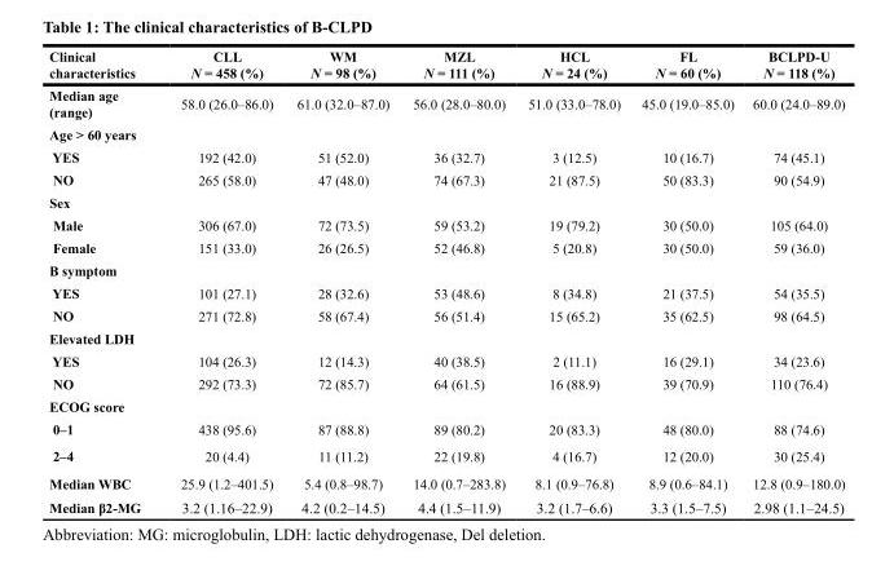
<table><thead><tr><td>Clinical characteristics</td><td>CLL N = 458 (%)</td><td>WM N = 98 (%)</td><td>MZL N = 111 (%)</td><td>HCL N = 24 (%)</td><td>FL N = 60 (%)</td><td>BCLPD-U N = 118 (%)</td></tr></thead><tbody><tr><td>Median age (range)</td><td>58.0 (26.0–86.0)</td><td>61.0 (32.0–87.0)</td><td>56.0 (28.0–80.0)</td><td>51.0 (33.0–78.0)</td><td>45.0 (19.0–85.0)</td><td>60.0 (24.0–89.0)</td></tr><tr><td colspan="7">Age &gt; 60 years</td></tr><tr><td>YES</td><td>192 (42.0)</td><td>51 (52.0)</td><td>36 (32.7)</td><td>3 (12.5)</td><td>10 (16.7)</td><td>74 (45.1)</td></tr><tr><td>NO</td><td>265 (58.0)</td><td>47 (48.0)</td><td>74 (67.3)</td><td>21 (87.5)</td><td>50 (83.3)</td><td>90 (54.9)</td></tr><tr><td colspan="7">Sex</td></tr><tr><td>Male</td><td>306 (67.0)</td><td>72 (73.5)</td><td>59 (53.2)</td><td>19 (79.2)</td><td>30 (50.0)</td><td>105 (64.0)</td></tr><tr><td>Female</td><td>151 (33.0)</td><td>26 (26.5)</td><td>52 (46.8)</td><td>5 (20.8)</td><td>30 (50.0)</td><td>59 (36.0)</td></tr><tr><td colspan="7">B symptom</td></tr><tr><td>YES</td><td>101 (27.1)</td><td>28 (32.6)</td><td>53 (48.6)</td><td>8 (34.8)</td><td>21 (37.5)</td><td>54 (35.5)</td></tr><tr><td>NO</td><td>271 (72.8)</td><td>58 (67.4)</td><td>56 (51.4)</td><td>15 (65.2)</td><td>35 (62.5)</td><td>98 (64.5)</td></tr><tr><td colspan="7">Elevated LDH</td></tr><tr><td>YES</td><td>104 (26.3)</td><td>12 (14.3)</td><td>40 (38.5)</td><td>2 (11.1)</td><td>16 (29.1)</td><td>34 (23.6)</td></tr><tr><td>NO</td><td>292 (73.3)</td><td>72 (85.7)</td><td>64 (61.5)</td><td>16 (88.9)</td><td>39 (70.9)</td><td>110 (76.4)</td></tr><tr><td colspan="7">ECOG score</td></tr><tr><td>0–1</td><td>438 (95.6)</td><td>87 (88.8)</td><td>89 (80.2)</td><td>20 (83.3)</td><td>48 (80.0)</td><td>88 (74.6)</td></tr><tr><td>2–4</td><td>20 (4.4)</td><td>11 (11.2)</td><td>22 (19.8)</td><td>4 (16.7)</td><td>12 (20.0)</td><td>30 (25.4)</td></tr><tr><td>Median WBC</td><td>25.9 (1.2–401.5)</td><td>5.4 (0.8–98.7)</td><td>14.0 (0.7–283.8)</td><td>8.1 (0.9–76.8)</td><td>8.9 (0.6–84.1)</td><td>12.8 (0.9–180.0)</td></tr><tr><td>Median β2-MG</td><td>3.2 (1.16–22.9)</td><td>4.2 (0.2–14.5)</td><td>4.4 (1.5–11.9)</td><td>3.2 (1.7–6.6)</td><td>3.3 (1.5–7.5)</td><td>2.98 (1.1–24.5)</td></tr></tbody></table>